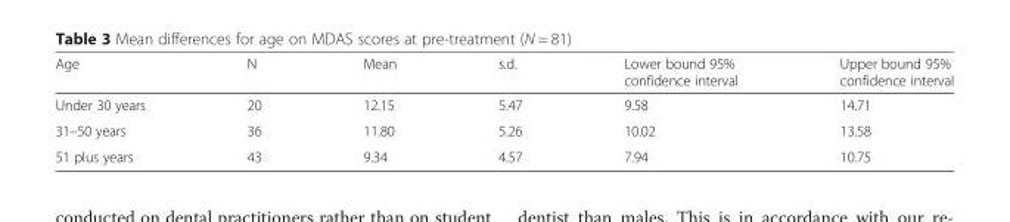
<table><thead><tr><td>Age</td><td>N</td><td>Mean</td><td>s.d.</td><td>Lower bound 95% confidence interval</td><td>Upper bound 95% confidence interval</td></tr></thead><tbody><tr><td>Under 30 years</td><td>20</td><td>12.15</td><td>5.47</td><td>9.58</td><td>14.71</td></tr><tr><td>31–50 years</td><td>36</td><td>11.80</td><td>5.26</td><td>10.02</td><td>13.58</td></tr><tr><td>51 plus years</td><td>43</td><td>9.34</td><td>4.57</td><td>7.94</td><td>10.75</td></tr></tbody></table>